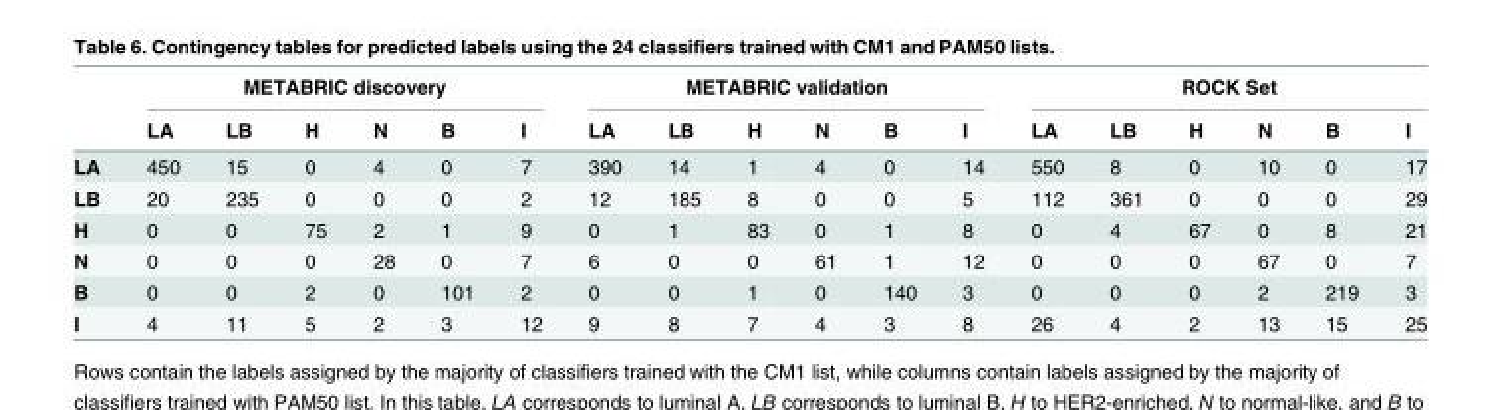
<table><thead><tr><td rowspan="2"></td><td colspan="6">METABRIC discovery</td><td colspan="6">METABRIC validation</td><td colspan="6">ROCK Set</td></tr><tr><td>LA</td><td>LB</td><td>H</td><td>N</td><td>B</td><td>I</td><td>LA</td><td>LB</td><td>H</td><td>N</td><td>B</td><td>I</td><td>LA</td><td>LB</td><td>H</td><td>N</td><td>B</td><td>I</td></tr></thead><tbody><tr><td>LA</td><td>450</td><td>15</td><td>0</td><td>4</td><td>0</td><td>7</td><td>390</td><td>14</td><td>1</td><td>4</td><td>0</td><td>14</td><td>550</td><td>8</td><td>0</td><td>10</td><td>0</td><td>17</td></tr><tr><td>LB</td><td>20</td><td>235</td><td>0</td><td>0</td><td>0</td><td>2</td><td>12</td><td>185</td><td>8</td><td>0</td><td>0</td><td>5</td><td>112</td><td>361</td><td>0</td><td>0</td><td>0</td><td>29</td></tr><tr><td>H</td><td>0</td><td>0</td><td>75</td><td>2</td><td>1</td><td>9</td><td>0</td><td>1</td><td>83</td><td>0</td><td>1</td><td>8</td><td>0</td><td>4</td><td>67</td><td>0</td><td>8</td><td>21</td></tr><tr><td>N</td><td>0</td><td>0</td><td>0</td><td>28</td><td>0</td><td>7</td><td>6</td><td>0</td><td>0</td><td>61</td><td>1</td><td>12</td><td>0</td><td>0</td><td>0</td><td>67</td><td>0</td><td>7</td></tr><tr><td>B</td><td>0</td><td>0</td><td>2</td><td>0</td><td>101</td><td>2</td><td>0</td><td>0</td><td>1</td><td>0</td><td>140</td><td>3</td><td>0</td><td>0</td><td>0</td><td>2</td><td>219</td><td>3</td></tr><tr><td>I</td><td>4</td><td>11</td><td>5</td><td>2</td><td>3</td><td>12</td><td>9</td><td>8</td><td>7</td><td>4</td><td>3</td><td>8</td><td>26</td><td>4</td><td>2</td><td>13</td><td>15</td><td>25</td></tr></tbody></table>